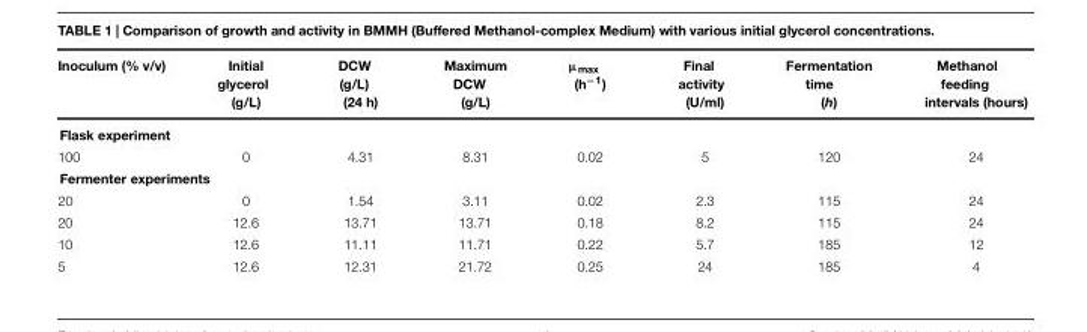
<table><thead><tr><td>Inoculum (% v/v)</td><td>Initial glycerol (g/L)</td><td>DCW (g/L) (24 h)</td><td>Maximum DCW (g/L)</td><td>μ<sub>max</sub> (h<sup>−1</sup>)</td><td>Final activity (U/ml)</td><td>Fermentation time (h)</td><td>Methanol feeding intervals (hours)</td></tr></thead><tbody><tr><td colspan="8">Flask experiment</td></tr><tr><td>100</td><td>0</td><td>4.31</td><td>8.31</td><td>0.02</td><td>5</td><td>120</td><td>24</td></tr><tr><td colspan="8">Fermenter experiments</td></tr><tr><td>20</td><td>0</td><td>1.54</td><td>3.11</td><td>0.02</td><td>2.3</td><td>115</td><td>24</td></tr><tr><td>20</td><td>12.6</td><td>13.71</td><td>13.71</td><td>0.18</td><td>8.2</td><td>115</td><td>24</td></tr><tr><td>10</td><td>12.6</td><td>11.11</td><td>11.71</td><td>0.22</td><td>5.7</td><td>185</td><td>12</td></tr><tr><td>5</td><td>12.6</td><td>12.31</td><td>21.72</td><td>0.25</td><td>24</td><td>185</td><td>4</td></tr></tbody></table>